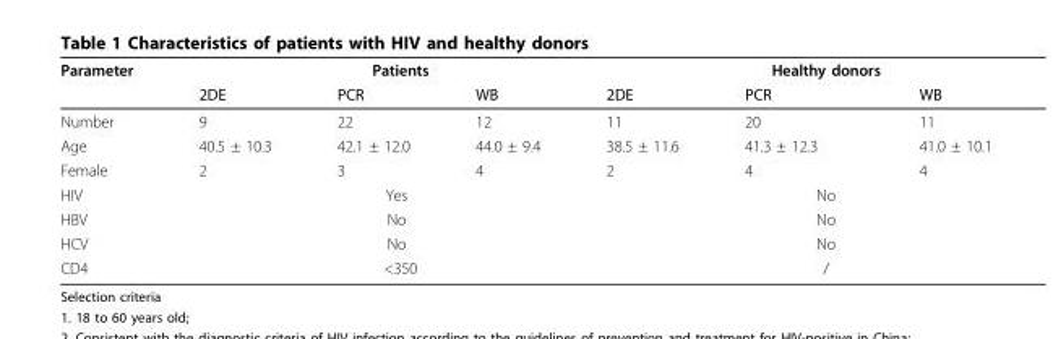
<table><thead><tr><td rowspan="2">Parameter</td><td rowspan="2">2DE</td><td rowspan="2">Patients PCR</td><td rowspan="2">WB</td><td rowspan="2">2DE</td><td rowspan="2">Healthy donors PCR</td><td rowspan="2">WB</td></tr><tr></tr></thead><tbody><tr><td>Number</td><td>9</td><td>22</td><td>12</td><td>11</td><td>20</td><td>11</td></tr><tr><td>Age</td><td>40.5 ± 10.3</td><td>42.1 ± 12.0</td><td>44.0 ± 9.4</td><td>38.5 ± 11.6</td><td>41.3 ± 12.3</td><td>41.0 ± 10.1</td></tr><tr><td>Female</td><td>2</td><td>3</td><td>4</td><td>2</td><td>4</td><td>4</td></tr><tr><td>HIV</td><td colspan="3">Yes</td><td colspan="3">No</td></tr><tr><td>HBV</td><td colspan="3">No</td><td colspan="3">No</td></tr><tr><td>HCV</td><td colspan="3">No</td><td colspan="3">No</td></tr><tr><td>CD4</td><td></td><td>&lt;350</td><td></td><td></td><td>/</td><td></td></tr></tbody></table>